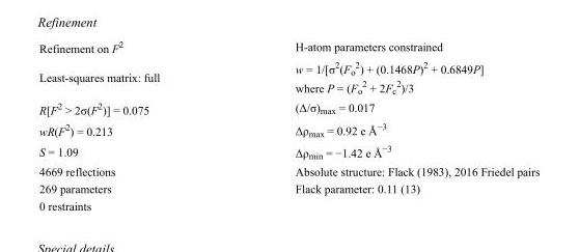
<table><tbody><tr><td>Refinement on F<sup>2</sup></td><td>H-atom parameters constrained</td></tr><tr><td>Least-squares matrix: full</td><td>w = 1/[σ<sup>2</sup>(F<sub>o</sub> <sup>2</sup>) + (0.1468P)<sup>2</sup> + 0.6849P] where P = (F<sub>o</sub> <sup>2</sup> + 2F<sub>c</sub> <sup>2</sup>)/3</td></tr><tr><td>R[F<sup>2</sup> &gt; 2σ(F<sup>2</sup>)] = 0.075</td><td>(Δ/σ)<sub>max</sub> = 0.017</td></tr><tr><td>wR(F<sup>2</sup>) = 0.213</td><td>Δρ<sub>max</sub> = 0.92 e Å<sup>−3</sup></td></tr><tr><td>S = 1.09</td><td>Δρ<sub>min</sub> = −1.42 e Å<sup>−3</sup></td></tr><tr><td>4669 reflections</td><td>Absolute structure: Flack (1983), 2016 Friedel pairs</td></tr><tr><td>269 parameters</td><td>Flack parameter: 0.11 (13)</td></tr><tr><td>0 restraints</td><td></td></tr></tbody></table>